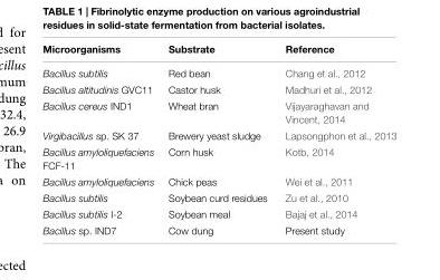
<table><thead><tr><td>Microorganisms</td><td>Substrate</td><td>Reference</td></tr></thead><tbody><tr><td>Bacillus subtilis</td><td>Red bean</td><td>Chang et al., 2012</td></tr><tr><td>Bacillus altitudinis GVC11</td><td>Castor husk</td><td>Madhuri et al., 2012</td></tr><tr><td>Bacillus cereus IND1</td><td>Wheat bran</td><td>Vijayaraghavan and Vincent, 2014</td></tr><tr><td>Virgibacillus sp. SK 37</td><td>Brewery yeast sludge</td><td>Lapsongphon et al., 2013</td></tr><tr><td>Bacillus amyloliquefaciens FCF-11</td><td>Corn husk</td><td>Kotb, 2014</td></tr><tr><td>Bacillus amyloliquefaciens</td><td>Chick peas</td><td>Wei et al., 2011</td></tr><tr><td>Bacillus subtilis</td><td>Soybean curd residues</td><td>Zu et al., 2010</td></tr><tr><td>Bacillus subtilis I-2</td><td>Soybean meal</td><td>Bajaj et al., 2014</td></tr><tr><td>Bacillus sp. IND7</td><td>Cow dung</td><td>Present study</td></tr></tbody></table>